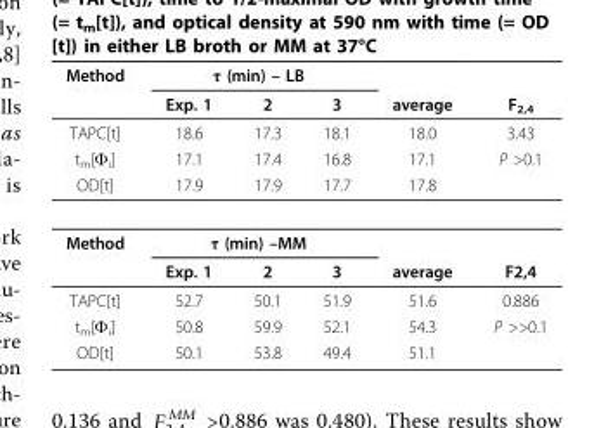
<table><thead><tr><td rowspan="5">Method TAPC[t] tm[Φi] OD[t]</td><td colspan="3">τ (min) – LB</td><td rowspan="5">average 18.0 17.1 17.8</td><td rowspan="5">F2,4 3.43 P &gt;0.1</td></tr><tr><td rowspan="4">Exp. 1 18.6 17.1 17.9</td><td rowspan="4">2 17.3 17.4 17.9</td><td rowspan="4">3 18.1 16.8 17.7</td></tr><tr></tr><tr></tr><tr></tr></thead><tbody><tr><td rowspan="2">Method</td><td colspan="3">τ (min) –MM</td><td></td><td></td></tr><tr><td>Exp. 1</td><td>2</td><td>3</td><td>average</td><td>F2,4</td></tr><tr><td>TAPC[t]</td><td>52.7</td><td>50.1</td><td>51.9</td><td>51.6</td><td>0.886</td></tr><tr><td>t<sub>m</sub>[Φ<sub>i</sub>]</td><td>50.8</td><td>59.9</td><td>52.1</td><td>54.3</td><td>P &gt;&gt;0.1</td></tr><tr><td>OD[t]</td><td>50.1</td><td>53.8</td><td>49.4</td><td>51.1</td><td></td></tr></tbody></table>